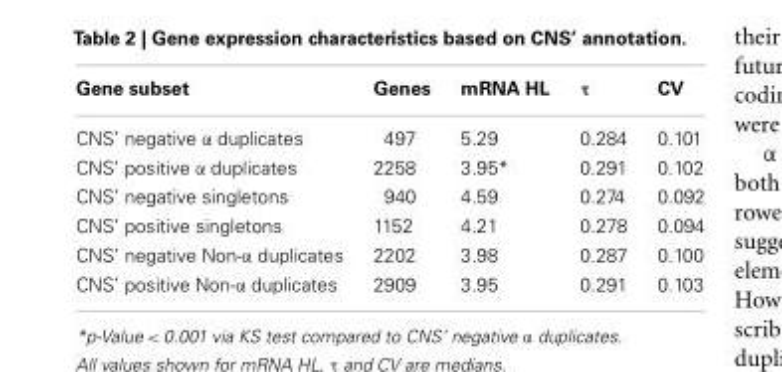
<table><thead><tr><td>Gene subset</td><td>Genes</td><td>mRNA HL</td><td>τ</td><td>CV</td></tr></thead><tbody><tr><td>CNS’ negative α duplicates</td><td>497</td><td>5.29</td><td>0.284</td><td>0.101</td></tr><tr><td>CNS’ positive α duplicates</td><td>2258</td><td>3.95*</td><td>0.291</td><td>0.102</td></tr><tr><td>CNS’ negative singletons</td><td>940</td><td>4.59</td><td>0.274</td><td>0.092</td></tr><tr><td>CNS’ positive singletons</td><td>1152</td><td>4.21</td><td>0.278</td><td>0.094</td></tr><tr><td>CNS’ negative Non-α duplicates</td><td>2202</td><td>3.98</td><td>0.287</td><td>0.100</td></tr><tr><td>CNS’ positive Non-α duplicates</td><td>2909</td><td>3.95</td><td>0.291</td><td>0.103</td></tr></tbody></table>